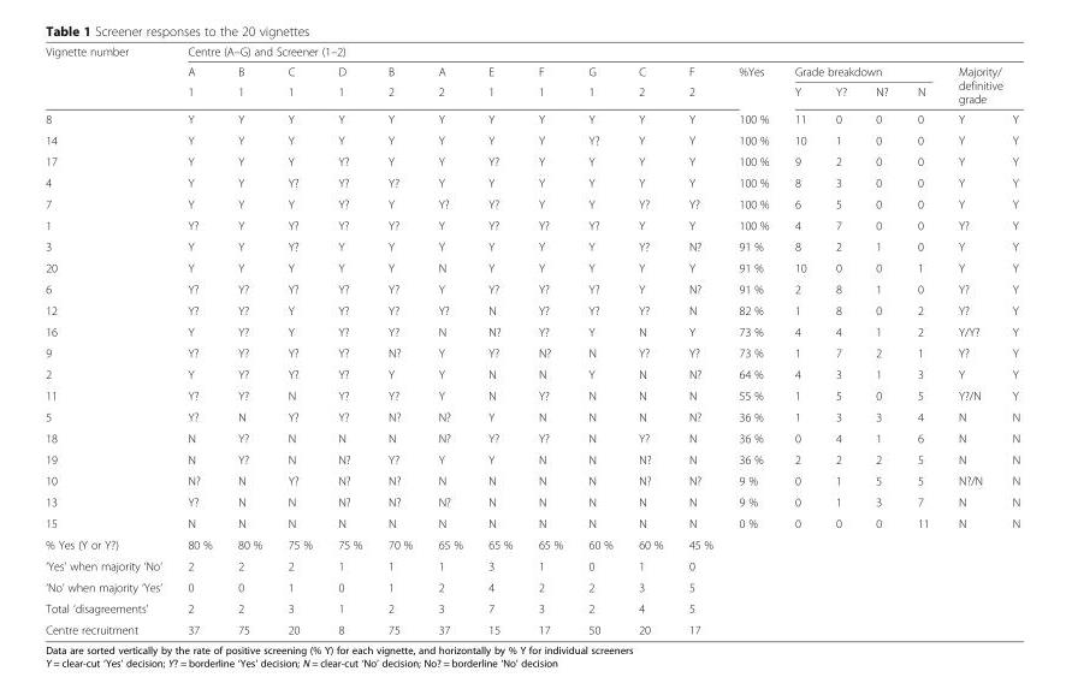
<table><thead><tr><td rowspan="4">Vignette number 8</td><td colspan="18">Centre (A–G) and Screener (1–2)</td></tr><tr><td rowspan="3">A 1 Y</td><td rowspan="3">B 1 Y</td><td rowspan="3">C 1 Y</td><td rowspan="3">D 1 Y</td><td rowspan="3">B 2 Y</td><td rowspan="3">A 2 Y</td><td rowspan="3">E 1 Y</td><td rowspan="3">F 1 Y</td><td rowspan="3">G 1 Y</td><td rowspan="3">C 2 Y</td><td rowspan="3">F 2 Y</td><td rowspan="3">%Yes 100 %</td><td colspan="4">Grade breakdown</td><td rowspan="2" colspan="2">Majority/ definitive grade</td></tr><tr><td rowspan="2">Y 11</td><td rowspan="2">Y? 0</td><td rowspan="2">N? 0</td><td rowspan="2">N 0</td></tr><tr><td>Y</td><td>Y</td></tr></thead><tbody><tr><td>14</td><td>Y</td><td>Y</td><td>Y</td><td>Y</td><td>Y</td><td>Y</td><td>Y</td><td>Y</td><td>Y?</td><td>Y</td><td>Y</td><td>100 %</td><td>10</td><td>1</td><td>0</td><td>0</td><td>Y</td><td>Y</td></tr><tr><td>17</td><td>Y</td><td>Y</td><td>Y</td><td>Y?</td><td>Y</td><td>Y</td><td>Y?</td><td>Y</td><td>Y</td><td>Y</td><td>Y</td><td>100 %</td><td>9</td><td>2</td><td>0</td><td>0</td><td>Y</td><td>Y</td></tr><tr><td>4</td><td>Y</td><td>Y</td><td>Y?</td><td>Y?</td><td>Y?</td><td>Y</td><td>Y</td><td>Y</td><td>Y</td><td>Y</td><td>Y</td><td>100 %</td><td>8</td><td>3</td><td>0</td><td>0</td><td>Y</td><td>Y</td></tr><tr><td>7</td><td>Y</td><td>Y</td><td>Y</td><td>Y?</td><td>Y</td><td>Y?</td><td>Y?</td><td>Y</td><td>Y</td><td>Y?</td><td>Y?</td><td>100 %</td><td>6</td><td>5</td><td>0</td><td>0</td><td>Y</td><td>Y</td></tr><tr><td>1</td><td>Y?</td><td>Y</td><td>Y?</td><td>Y?</td><td>Y?</td><td>Y</td><td>Y?</td><td>Y?</td><td>Y?</td><td>Y</td><td>Y</td><td>100 %</td><td>4</td><td>7</td><td>0</td><td>0</td><td>Y?</td><td>Y</td></tr><tr><td>3</td><td>Y</td><td>Y</td><td>Y?</td><td>Y</td><td>Y</td><td>Y</td><td>Y</td><td>Y</td><td>Y</td><td>Y?</td><td>N?</td><td>91 %</td><td>8</td><td>2</td><td>1</td><td>0</td><td>Y</td><td>Y</td></tr><tr><td>20</td><td>Y</td><td>Y</td><td>Y</td><td>Y</td><td>Y</td><td>N</td><td>Y</td><td>Y</td><td>Y</td><td>Y</td><td>Y</td><td>91 %</td><td>10</td><td>0</td><td>0</td><td>1</td><td>Y</td><td>Y</td></tr><tr><td>6</td><td>Y?</td><td>Y?</td><td>Y?</td><td>Y?</td><td>Y?</td><td>Y</td><td>Y?</td><td>Y?</td><td>Y?</td><td>Y</td><td>N?</td><td>91 %</td><td>2</td><td>8</td><td>1</td><td>0</td><td>Y?</td><td>Y</td></tr><tr><td>12</td><td>Y?</td><td>Y?</td><td>Y</td><td>Y?</td><td>Y?</td><td>Y?</td><td>N</td><td>Y?</td><td>Y?</td><td>Y?</td><td>N</td><td>82 %</td><td>1</td><td>8</td><td>0</td><td>2</td><td>Y?</td><td>Y</td></tr><tr><td>16</td><td>Y</td><td>Y?</td><td>Y</td><td>Y?</td><td>Y?</td><td>N</td><td>N?</td><td>Y?</td><td>Y</td><td>N</td><td>Y</td><td>73 %</td><td>4</td><td>4</td><td>1</td><td>2</td><td>Y/Y?</td><td>Y</td></tr><tr><td>9</td><td>Y?</td><td>Y?</td><td>Y?</td><td>Y?</td><td>N?</td><td>Y</td><td>Y?</td><td>N?</td><td>N</td><td>Y?</td><td>Y?</td><td>73 %</td><td>1</td><td>7</td><td>2</td><td>1</td><td>Y?</td><td>Y</td></tr><tr><td>2</td><td>Y</td><td>Y?</td><td>Y?</td><td>Y?</td><td>Y</td><td>Y</td><td>N</td><td>N</td><td>Y</td><td>N</td><td>N?</td><td>64 %</td><td>4</td><td>3</td><td>1</td><td>3</td><td>Y</td><td>Y</td></tr><tr><td>11</td><td>Y?</td><td>Y?</td><td>N</td><td>Y?</td><td>Y?</td><td>Y</td><td>N</td><td>Y?</td><td>N</td><td>N</td><td>N</td><td>55 %</td><td>1</td><td>5</td><td>0</td><td>5</td><td>Y?/N</td><td>Y</td></tr><tr><td>5</td><td>Y?</td><td>N</td><td>Y?</td><td>Y?</td><td>N?</td><td>N?</td><td>Y</td><td>N</td><td>N</td><td>N</td><td>N?</td><td>36 %</td><td>1</td><td>3</td><td>3</td><td>4</td><td>N</td><td>N</td></tr><tr><td>18</td><td>N</td><td>Y?</td><td>N</td><td>N</td><td>N</td><td>N?</td><td>Y?</td><td>Y?</td><td>N</td><td>Y?</td><td>N</td><td>36 %</td><td>0</td><td>4</td><td>1</td><td>6</td><td>N</td><td>N</td></tr><tr><td>19</td><td>N</td><td>Y?</td><td>N</td><td>N?</td><td>Y?</td><td>Y</td><td>Y</td><td>N</td><td>N</td><td>N?</td><td>N</td><td>36 %</td><td>2</td><td>2</td><td>2</td><td>5</td><td>N</td><td>N</td></tr><tr><td>10</td><td>N?</td><td>N</td><td>Y?</td><td>N?</td><td>N?</td><td>N</td><td>N</td><td>N</td><td>N</td><td>N?</td><td>N?</td><td>9 %</td><td>0</td><td>1</td><td>5</td><td>5</td><td>N?/N</td><td>N</td></tr><tr><td>13</td><td>Y?</td><td>N</td><td>N</td><td>N?</td><td>N?</td><td>N?</td><td>N</td><td>N</td><td>N</td><td>N</td><td>N</td><td>9 %</td><td>0</td><td>1</td><td>3</td><td>7</td><td>N</td><td>N</td></tr><tr><td>15</td><td>N</td><td>N</td><td>N</td><td>N</td><td>N</td><td>N</td><td>N</td><td>N</td><td>N</td><td>N</td><td>N</td><td>0 %</td><td>0</td><td>0</td><td>0</td><td>11</td><td>N</td><td>N</td></tr><tr><td>% Yes (Y or Y?)</td><td>80 %</td><td>80 %</td><td>75 %</td><td>75 %</td><td>70 %</td><td>65 %</td><td>65 %</td><td>65 %</td><td>60 %</td><td>60 %</td><td>45 %</td><td></td><td></td><td></td><td></td><td></td><td></td><td></td></tr><tr><td>‘Yes’ when majority ‘No’</td><td>2</td><td>2</td><td>2</td><td>1</td><td>1</td><td>1</td><td>3</td><td>1</td><td>0</td><td>1</td><td>0</td><td></td><td></td><td></td><td></td><td></td><td></td><td></td></tr><tr><td>‘No’ when majority ‘Yes’</td><td>0</td><td>0</td><td>1</td><td>0</td><td>1</td><td>2</td><td>4</td><td>2</td><td>2</td><td>3</td><td>5</td><td></td><td></td><td></td><td></td><td></td><td></td><td></td></tr><tr><td>Total ‘disagreements’</td><td>2</td><td>2</td><td>3</td><td>1</td><td>2</td><td>3</td><td>7</td><td>3</td><td>2</td><td>4</td><td>5</td><td></td><td></td><td></td><td></td><td></td><td></td><td></td></tr><tr><td>Centre recruitment</td><td>37</td><td>75</td><td>20</td><td>8</td><td>75</td><td>37</td><td>15</td><td>17</td><td>50</td><td>20</td><td>17</td><td></td><td></td><td></td><td></td><td></td><td></td><td></td></tr></tbody></table>